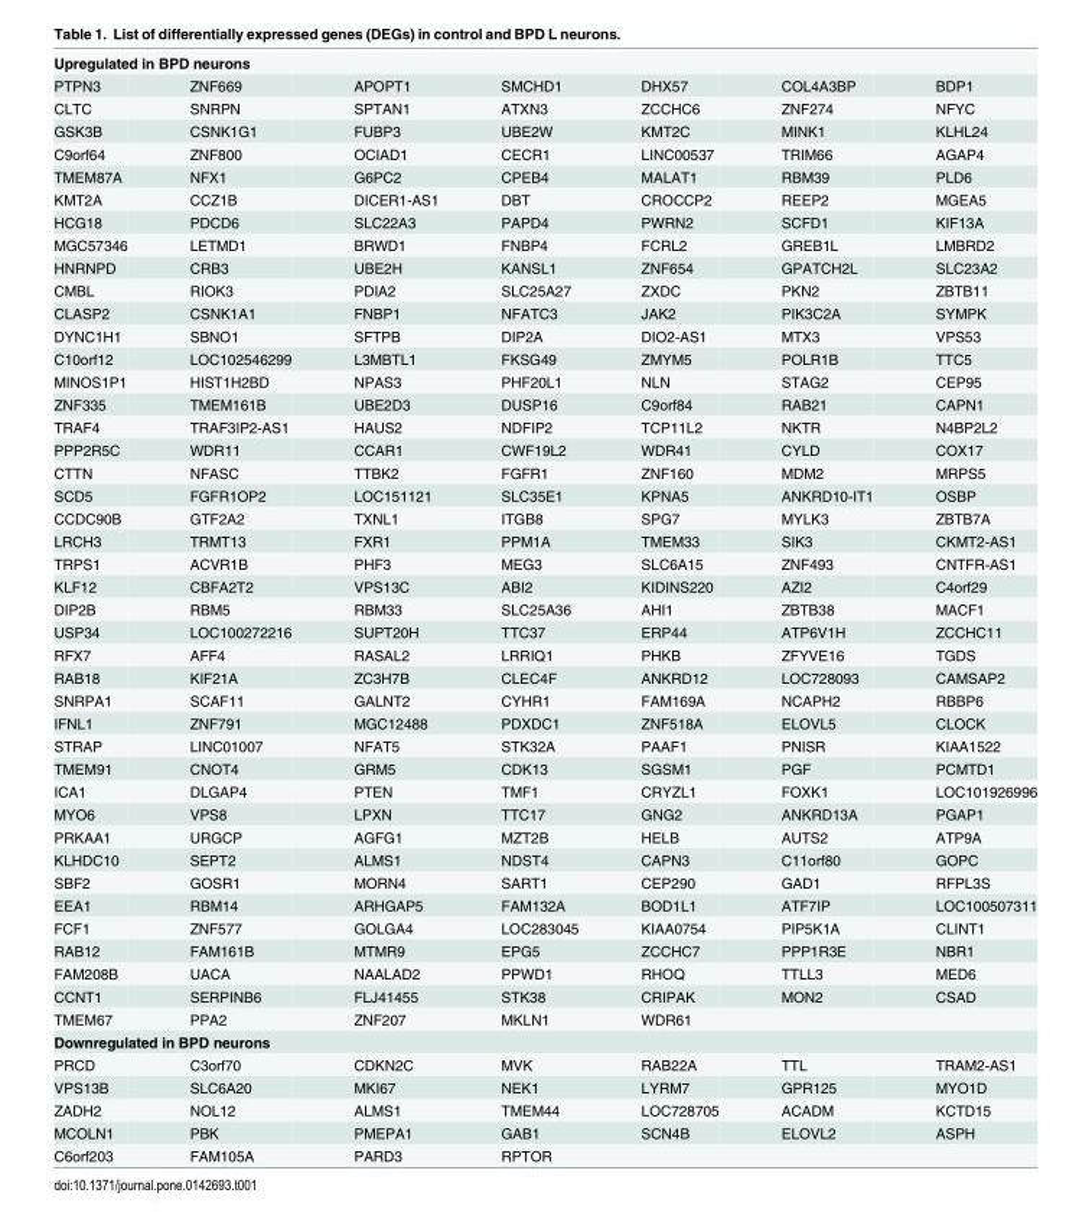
<table><tbody><tr><td colspan="7">Upregulated in BPD neurons</td></tr><tr><td>PTPN3</td><td>ZNF669</td><td>APOPT1</td><td>SMCHD1</td><td>DHX57</td><td>COL4A3BP</td><td>BDP1</td></tr><tr><td>CLTC</td><td>SNRPN</td><td>SPTAN1</td><td>ATXN3</td><td>ZCCHC6</td><td>ZNF274</td><td>NFYC</td></tr><tr><td>GSK3B</td><td>CSNK1G1</td><td>FUBP3</td><td>UBE2W</td><td>KMT2C</td><td>MINK1</td><td>KLHL24</td></tr><tr><td>C9orf64</td><td>ZNF800</td><td>OCIAD1</td><td>CECR1</td><td>LINC00537</td><td>TRIM66</td><td>AGAP4</td></tr><tr><td>TMEM87A</td><td>NFX1</td><td>G6PC2</td><td>CPEB4</td><td>MALAT1</td><td>RBM39</td><td>PLD6</td></tr><tr><td>KMT2A</td><td>CCZ1B</td><td>DICER1-AS1</td><td>DBT</td><td>CROCCP2</td><td>REEP2</td><td>MGEA5</td></tr><tr><td>HCG18</td><td>PDCD6</td><td>SLC22A3</td><td>PAPD4</td><td>PWRN2</td><td>SCFD1</td><td>KIF13A</td></tr><tr><td>MGC57346</td><td>LETMD1</td><td>BRWD1</td><td>FNBP4</td><td>FCRL2</td><td>GREB1L</td><td>LMBRD2</td></tr><tr><td>HNRNPD</td><td>CRB3</td><td>UBE2H</td><td>KANSL1</td><td>ZNF654</td><td>GPATCH2L</td><td>SLC23A2</td></tr><tr><td>CMBL</td><td>RIOK3</td><td>PDIA2</td><td>SLC25A27</td><td>ZXDC</td><td>PKN2</td><td>ZBTB11</td></tr><tr><td>CLASP2</td><td>CSNK1A1</td><td>FNBP1</td><td>NFATC3</td><td>JAK2</td><td>PIK3C2A</td><td>SYMPK</td></tr><tr><td>DYNC1H1</td><td>SBNO1</td><td>SFTPB</td><td>DIP2A</td><td>DIO2-AS1</td><td>MTX3</td><td>VPS53</td></tr><tr><td>C10orf12</td><td>LOC102546299</td><td>L3MBTL1</td><td>FKSG49</td><td>ZMYM5</td><td>POLR1B</td><td>TTC5</td></tr><tr><td>MINOS1P1</td><td>HIST1H2BD</td><td>NPAS3</td><td>PHF20L1</td><td>NLN</td><td>STAG2</td><td>CEP95</td></tr><tr><td>ZNF335</td><td>TMEM161B</td><td>UBE2D3</td><td>DUSP16</td><td>C9orf84</td><td>RAB21</td><td>CAPN1</td></tr><tr><td>TRAF4</td><td>TRAF3IP2-AS1</td><td>HAUS2</td><td>NDFIP2</td><td>TCP11L2</td><td>NKTR</td><td>N4BP2L2</td></tr><tr><td>PPP2R5C</td><td>WDR11</td><td>CCAR1</td><td>CWF19L2</td><td>WDR41</td><td>CYLD</td><td>COX17</td></tr><tr><td>CTTN</td><td>NFASC</td><td>TTBK2</td><td>FGFR1</td><td>ZNF160</td><td>MDM2</td><td>MRPS5</td></tr><tr><td>SCD5</td><td>FGFR1OP2</td><td>LOC151121</td><td>SLC35E1</td><td>KPNA5</td><td>ANKRD10-IT1</td><td>OSBP</td></tr><tr><td>CCDC90B</td><td>GTF2A2</td><td>TXNL1</td><td>ITGB8</td><td>SPG7</td><td>MYLK3</td><td>ZBTB7A</td></tr><tr><td>LRCH3</td><td>TRMT13</td><td>FXR1</td><td>PPM1A</td><td>TMEM33</td><td>SIK3</td><td>CKMT2-AS1</td></tr><tr><td>TRPS1</td><td>ACVR1B</td><td>PHF3</td><td>MEG3</td><td>SLC6A15</td><td>ZNF493</td><td>CNTFR-AS1</td></tr><tr><td>KLF12</td><td>CBFA2T2</td><td>VPS13C</td><td>ABI2</td><td>KIDINS220</td><td>AZI2</td><td>C4orf29</td></tr><tr><td>DIP2B</td><td>RBM5</td><td>RBM33</td><td>SLC25A36</td><td>AHI1</td><td>ZBTB38</td><td>MACF1</td></tr><tr><td>USP34</td><td>LOC100272216</td><td>SUPT20H</td><td>TTC37</td><td>ERP44</td><td>ATP6V1H</td><td>ZCCHC11</td></tr><tr><td>RFX7</td><td>AFF4</td><td>RASAL2</td><td>LRRIQ1</td><td>PHKB</td><td>ZFYVE16</td><td>TGDS</td></tr><tr><td>RAB18</td><td>KIF21A</td><td>ZC3H7B</td><td>CLEC4F</td><td>ANKRD12</td><td>LOC728093</td><td>CAMSAP2</td></tr><tr><td>SNRPA1</td><td>SCAF11</td><td>GALNT2</td><td>CYHR1</td><td>FAM169A</td><td>NCAPH2</td><td>RBBP6</td></tr><tr><td>IFNL1</td><td>ZNF791</td><td>MGC12488</td><td>PDXDC1</td><td>ZNF518A</td><td>ELOVL5</td><td>CLOCK</td></tr><tr><td>STRAP</td><td>LINC01007</td><td>NFAT5</td><td>STK32A</td><td>PAAF1</td><td>PNISR</td><td>KIAA1522</td></tr><tr><td>TMEM91</td><td>CNOT4</td><td>GRM5</td><td>CDK13</td><td>SGSM1</td><td>PGF</td><td>PCMTD1</td></tr><tr><td>ICA1</td><td>DLGAP4</td><td>PTEN</td><td>TMF1</td><td>CRYZL1</td><td>FOXK1</td><td>LOC101926996</td></tr><tr><td>MYO6</td><td>VPS8</td><td>LPXN</td><td>TTC17</td><td>GNG2</td><td>ANKRD13A</td><td>PGAP1</td></tr><tr><td>PRKAA1</td><td>URGCP</td><td>AGFG1</td><td>MZT2B</td><td>HELB</td><td>AUTS2</td><td>ATP9A</td></tr><tr><td>KLHDC10</td><td>SEPT2</td><td>ALMS1</td><td>NDST4</td><td>CAPN3</td><td>C11orf80</td><td>GOPC</td></tr><tr><td>SBF2</td><td>GOSR1</td><td>MORN4</td><td>SART1</td><td>CEP290</td><td>GAD1</td><td>RFPL3S</td></tr><tr><td>EEA1</td><td>RBM14</td><td>ARHGAP5</td><td>FAM132A</td><td>BOD1L1</td><td>ATF7IP</td><td>LOC100507311</td></tr><tr><td>FCF1</td><td>ZNF577</td><td>GOLGA4</td><td>LOC283045</td><td>KIAA0754</td><td>PIP5K1A</td><td>CLINT1</td></tr><tr><td>RAB12</td><td>FAM161B</td><td>MTMR9</td><td>EPG5</td><td>ZCCHC7</td><td>PPP1R3E</td><td>NBR1</td></tr><tr><td>FAM208B</td><td>UACA</td><td>NAALAD2</td><td>PPWD1</td><td>RHOQ</td><td>TTLL3</td><td>MED6</td></tr><tr><td>CCNT1</td><td>SERPINB6</td><td>FLJ41455</td><td>STK38</td><td>CRIPAK</td><td>MON2</td><td>CSAD</td></tr><tr><td>TMEM67</td><td>PPA2</td><td>ZNF207</td><td>MKLN1</td><td>WDR61</td><td></td><td></td></tr><tr><td colspan="7">Downregulated in BPD neurons</td></tr><tr><td>PRCD</td><td>C3orf70</td><td>CDKN2C</td><td>MVK</td><td>RAB22A</td><td>TTL</td><td>TRAM2-AS1</td></tr><tr><td>VPS13B</td><td>SLC6A20</td><td>MKI67</td><td>NEK1</td><td>LYRM7</td><td>GPR125</td><td>MYO1D</td></tr><tr><td>ZADH2</td><td>NOL12</td><td>ALMS1</td><td>TMEM44</td><td>LOC728705</td><td>ACADM</td><td>KCTD15</td></tr><tr><td>MCOLN1</td><td>PBK</td><td>PMEPA1</td><td>GAB1</td><td>SCN4B</td><td>ELOVL2</td><td>ASPH</td></tr><tr><td>C6orf203</td><td>FAM105A</td><td>PARD3</td><td>RPTOR</td><td></td><td></td><td></td></tr></tbody></table>